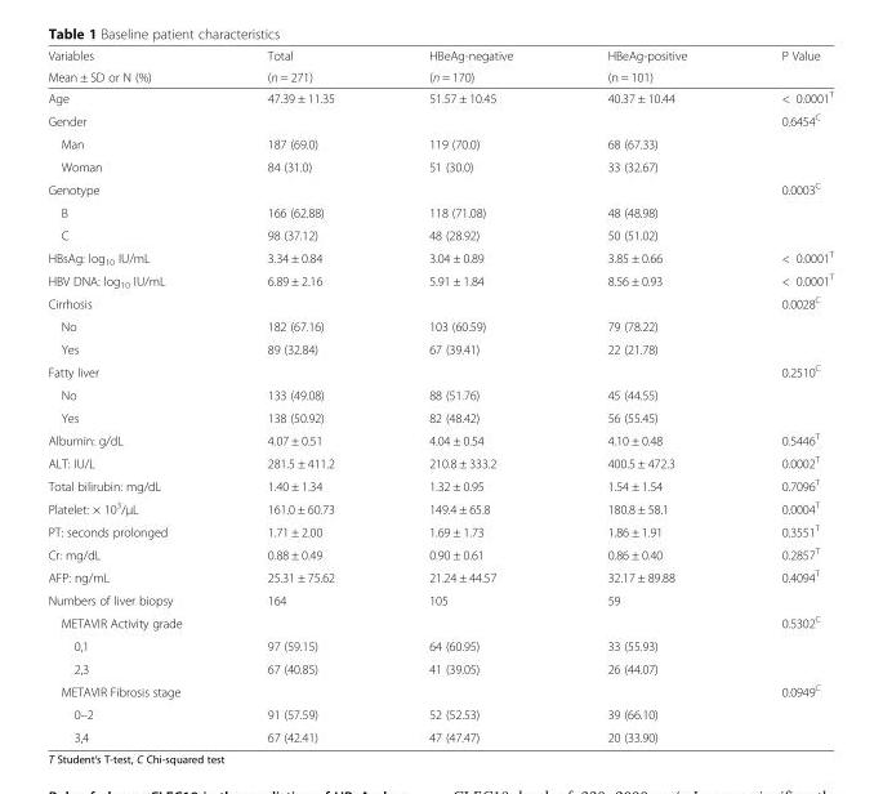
<table><thead><tr><td rowspan="2">Variables Mean ± SD or N (%)</td><td rowspan="2">Total (n = 271)</td><td rowspan="2">HBeAg-negative (n = 170)</td><td rowspan="2">HBeAg-positive (n = 101)</td><td rowspan="2">P Value</td></tr><tr></tr></thead><tbody><tr><td>Age</td><td>47.39 ± 11.35</td><td>51.57 ± 10.45</td><td>40.37 ± 10.44</td><td>&lt; 0.0001<sup>T</sup></td></tr><tr><td colspan="4">Gender</td><td>0.6454<sup>C</sup></td></tr><tr><td>Man</td><td>187 (69.0)</td><td>119 (70.0)</td><td>68 (67.33)</td><td rowspan="2"></td></tr><tr><td>Woman</td><td>84 (31.0)</td><td>51 (30.0)</td><td>33 (32.67)</td></tr><tr><td colspan="4">Genotype</td><td>0.0003<sup>C</sup></td></tr><tr><td>B</td><td>166 (62.88)</td><td>118 (71.08)</td><td>48 (48.98)</td><td rowspan="2"></td></tr><tr><td>C</td><td>98 (37.12)</td><td>48 (28.92)</td><td>50 (51.02)</td></tr><tr><td>HBsAg: log<sub>10</sub> IU/mL</td><td>3.34 ± 0.84</td><td>3.04 ± 0.89</td><td>3.85 ± 0.66</td><td>&lt; 0.0001<sup>T</sup></td></tr><tr><td>HBV DNA: log<sub>10</sub> IU/mL</td><td>6.89 ± 2.16</td><td>5.91 ± 1.84</td><td>8.56 ± 0.93</td><td>&lt; 0.0001<sup>T</sup></td></tr><tr><td colspan="4">Cirrhosis</td><td>0.0028<sup>C</sup></td></tr><tr><td>No</td><td>182 (67.16)</td><td>103 (60.59)</td><td>79 (78.22)</td><td rowspan="2"></td></tr><tr><td>Yes</td><td>89 (32.84)</td><td>67 (39.41)</td><td>22 (21.78)</td></tr><tr><td colspan="4">Fatty liver</td><td>0.2510<sup>C</sup></td></tr><tr><td>No</td><td>133 (49.08)</td><td>88 (51.76)</td><td>45 (44.55)</td><td rowspan="2"></td></tr><tr><td>Yes</td><td>138 (50.92)</td><td>82 (48.42)</td><td>56 (55.45)</td></tr><tr><td>Albumin: g/dL</td><td>4.07 ± 0.51</td><td>4.04 ± 0.54</td><td>4.10 ± 0.48</td><td>0.5446<sup>T</sup></td></tr><tr><td>ALT: IU/L</td><td>281.5 ± 411.2</td><td>210.8 ± 333.2</td><td>400.5 ± 472.3</td><td>0.0002<sup>T</sup></td></tr><tr><td>Total bilirubin: mg/dL</td><td>1.40 ± 1.34</td><td>1.32 ± 0.95</td><td>1.54 ± 1.54</td><td>0.7096<sup>T</sup></td></tr><tr><td>Platelet: × 10<sup>3</sup>/μL</td><td>161.0 ± 60.73</td><td>149.4 ± 65.8</td><td>180.8 ± 58.1</td><td>0.0004<sup>T</sup></td></tr><tr><td>PT: seconds prolonged</td><td>1.71 ± 2.00</td><td>1.69 ± 1.73</td><td>1.86 ± 1.91</td><td>0.3551<sup>T</sup></td></tr><tr><td>Cr: mg/dL</td><td>0.88 ± 0.49</td><td>0.90 ± 0.61</td><td>0.86 ± 0.40</td><td>0.2857<sup>T</sup></td></tr><tr><td>AFP: ng/mL</td><td>25.31 ± 75.62</td><td>21.24 ± 44.57</td><td>32.17 ± 89.88</td><td>0.4094<sup>T</sup></td></tr><tr><td>Numbers of liver biopsy</td><td>164</td><td>105</td><td>59</td><td></td></tr><tr><td colspan="4">METAVIR Activity grade</td><td>0.5302<sup>C</sup></td></tr><tr><td>0,1</td><td>97 (59.15)</td><td>64 (60.95)</td><td>33 (55.93)</td><td rowspan="2"></td></tr><tr><td>2,3</td><td>67 (40.85)</td><td>41 (39.05)</td><td>26 (44.07)</td></tr><tr><td colspan="4">METAVIR Fibrosis stage</td><td>0.0949<sup>C</sup></td></tr><tr><td>0–2</td><td>91 (57.59)</td><td>52 (52.53)</td><td>39 (66.10)</td><td rowspan="2"></td></tr><tr><td>3,4</td><td>67 (42.41)</td><td>47 (47.47)</td><td>20 (33.90)</td></tr></tbody></table>